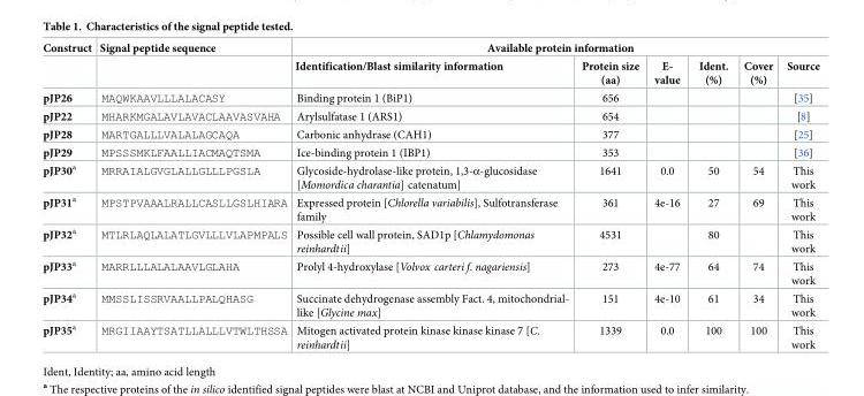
<table><thead><tr><td rowspan="2">Construct</td><td rowspan="2">Signal peptide sequence</td><td colspan="6">Available protein information</td></tr><tr><td>Identification/Blast similarity information</td><td>Protein size (aa)</td><td>E- value</td><td>Ident. (%)</td><td>Cover (%)</td><td>Source</td></tr></thead><tbody><tr><td>pJP26</td><td>MAQWKAAVLLLALACASY</td><td>Binding protein 1 (BiP1)</td><td>656</td><td></td><td></td><td></td><td>[35]</td></tr><tr><td>pJP22</td><td>MHARKMGALAVLAVACLAAVASVAHA</td><td>Arylsulfatase 1 (ARS1)</td><td>654</td><td></td><td></td><td></td><td>[8]</td></tr><tr><td>pJP28</td><td>MARTGALLLVALALAGCAQA</td><td>Carbonic anhydrase (CAH1)</td><td>377</td><td></td><td></td><td></td><td>[25]</td></tr><tr><td>pJP29</td><td>MPSSSMKLFAALLIACMAQTSMA</td><td>Ice-binding protein 1 (IBP1)</td><td>353</td><td></td><td></td><td></td><td>[36]</td></tr><tr><td>pJP30<sup>a</sup></td><td>MRRAIALGVGLALLGLLLPGSLA</td><td>Glycoside-hydrolase-like protein, 1,3-α-glucosidase [Momordica charantia] catenatum]</td><td>1641</td><td>0.0</td><td>50</td><td>54</td><td>This work</td></tr><tr><td>pJP31<sup>a</sup></td><td>MPSTPVAAALRALLCASLLGSLHIARA</td><td>Expressed protein [Chlorella variabilis], Sulfotransferase family</td><td>361</td><td>4e-16</td><td>27</td><td>69</td><td>This work</td></tr><tr><td>pJP32<sup>a</sup></td><td>MTLRLAQLALATLGVLLLVLAPMPALS</td><td>Possible cell wall protein, SAD1p [Chlamydomonas reinhardtii]</td><td>4531</td><td></td><td>80</td><td></td><td>This work</td></tr><tr><td>pJP33<sup>a</sup></td><td>MARRLLLALALAAVLGLAHA</td><td>Prolyl 4-hydroxylase [Volvox carteri f. nagariensis]</td><td>273</td><td>4e-77</td><td>64</td><td>74</td><td>This work</td></tr><tr><td>pJP34<sup>a</sup></td><td>MMSSLISSRVAALLPALQHASG</td><td>Succinate dehydrogenase assembly Fact. 4, mitochondrial- like [Glycine max]</td><td>151</td><td>4e-10</td><td>61</td><td>34</td><td>This work</td></tr><tr><td>pJP35<sup>a</sup></td><td>MRGIIAAYTSATLLALLLVTWLTHSSA</td><td>Mitogen activated protein kinase kinase kinase 7 [C. reinhardtii]</td><td>1339</td><td>0.0</td><td>100</td><td>100</td><td>This work</td></tr></tbody></table>